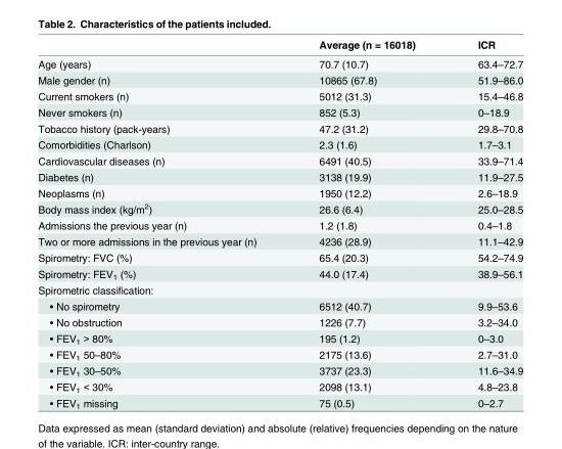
<table><thead><tr><td></td><td>Average (n = 16018)</td><td>ICR</td></tr></thead><tbody><tr><td>Age (years)</td><td>70.7 (10.7)</td><td>63.4–72.7</td></tr><tr><td>Male gender (n)</td><td>10865 (67.8)</td><td>51.9–86.0</td></tr><tr><td>Current smokers (n)</td><td>5012 (31.3)</td><td>15.4–46.8</td></tr><tr><td>Never smokers (n)</td><td>852 (5.3)</td><td>0–18.9</td></tr><tr><td>Tobacco history (pack-years)</td><td>47.2 (31.2)</td><td>29.8–70.8</td></tr><tr><td>Comorbidities (Charlson)</td><td>2.3 (1.6)</td><td>1.7–3.1</td></tr><tr><td>Cardiovascular diseases (n)</td><td>6491 (40.5)</td><td>33.9–71.4</td></tr><tr><td>Diabetes (n)</td><td>3138 (19.9)</td><td>11.9–27.5</td></tr><tr><td>Neoplasms (n)</td><td>1950 (12.2)</td><td>2.6–18.9</td></tr><tr><td>Body mass index (kg/m<sup>2</sup>)</td><td>26.6 (6.4)</td><td>25.0–28.5</td></tr><tr><td>Admissions the previous year (n)</td><td>1.2 (1.8)</td><td>0.4–1.8</td></tr><tr><td>Two or more admissions in the previous year (n)</td><td>4236 (28.9)</td><td>11.1–42.9</td></tr><tr><td>Spirometry: FVC (%)</td><td>65.4 (20.3)</td><td>54.2–74.9</td></tr><tr><td>Spirometry: FEV<sub>1</sub> (%)</td><td>44.0 (17.4)</td><td>38.9–56.1</td></tr><tr><td colspan="3">Spirometric classification:</td></tr><tr><td>• No spirometry</td><td>6512 (40.7)</td><td>9.9–53.6</td></tr><tr><td>• No obstruction</td><td>1226 (7.7)</td><td>3.2–34.0</td></tr><tr><td>• FEV<sub>1</sub> &gt; 80%</td><td>195 (1.2)</td><td>0–3.0</td></tr><tr><td>• FEV<sub>1</sub> 50–80%</td><td>2175 (13.6)</td><td>2.7–31.0</td></tr><tr><td>• FEV<sub>1</sub> 30–50%</td><td>3737 (23.3)</td><td>11.6–34.9</td></tr><tr><td>• FEV<sub>1</sub> &lt; 30%</td><td>2098 (13.1)</td><td>4.8–23.8</td></tr><tr><td>• FEV<sub>1</sub> missing</td><td>75 (0.5)</td><td>0–2.7</td></tr></tbody></table>